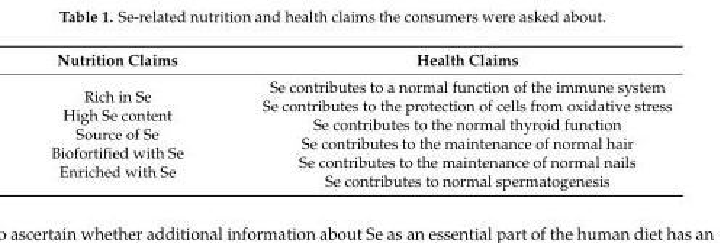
<table><thead><tr><td>Nutrition Claims</td><td>Health Claims</td></tr></thead><tbody><tr><td>Rich in Se High Se content Source of Se Biofortified with Se Enriched with Se</td><td>Se contributes to a normal function of the immune system Se contributes to the protection of cells from oxidative stress Se contributes to the normal thyroid function Se contributes to the maintenance of normal hair Se contributes to the maintenance of normal nails Se contributes to normal spermatogenesis</td></tr></tbody></table>